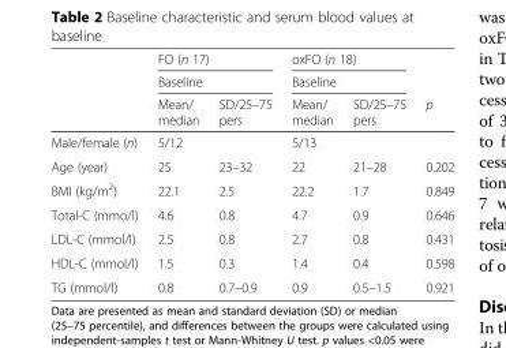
<table><thead><tr><td rowspan="3"></td><td rowspan="2" colspan="2">FO (n 17) Baseline</td><td rowspan="2" colspan="2">oxFO (n 18) Baseline</td><td rowspan="3">p</td></tr><tr></tr><tr><td>Mean/ median</td><td>SD/25–75 pers</td><td>Mean/ median</td><td>SD/25–75 pers</td></tr></thead><tbody><tr><td>Male/female (n)</td><td>5/12</td><td></td><td>5/13</td><td></td><td></td></tr><tr><td>Age (year)</td><td>25</td><td>23–32</td><td>22</td><td>21–28</td><td>0.202</td></tr><tr><td>BMI (kg/m<sup>2</sup>)</td><td>22.1</td><td>2.5</td><td>22.2</td><td>1.7</td><td>0.849</td></tr><tr><td>Total-C (mmo/l)</td><td>4.6</td><td>0.8</td><td>4.7</td><td>0.9</td><td>0.646</td></tr><tr><td>LDL-C (mmol/l)</td><td>2.5</td><td>0.8</td><td>2.7</td><td>0.8</td><td>0.431</td></tr><tr><td>HDL-C (mmol/l)</td><td>1.5</td><td>0.3</td><td>1.4</td><td>0.4</td><td>0.598</td></tr><tr><td>TG (mmol/l)</td><td>0.8</td><td>0.7–0.9</td><td>0.9</td><td>0.5–1.5</td><td>0.921</td></tr></tbody></table>